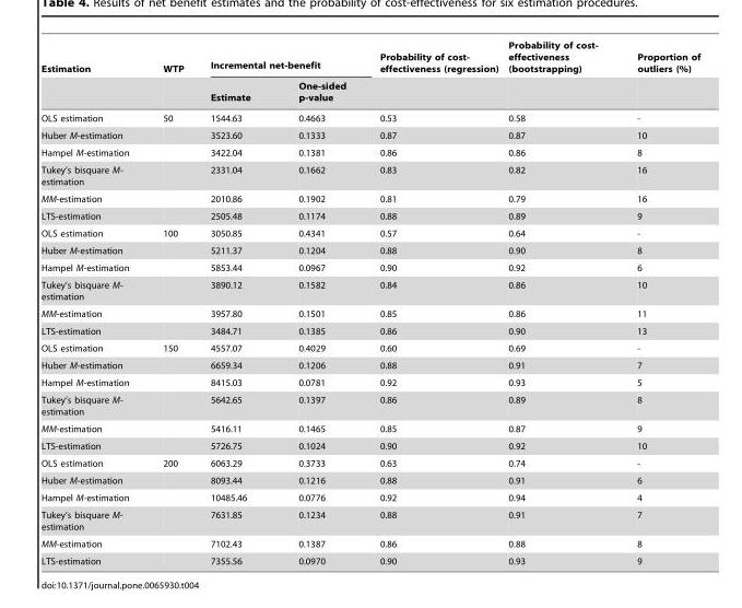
<table><thead><tr><td rowspan="2">Estimation</td><td rowspan="2">WTP</td><td colspan="2">Incremental net-benefit</td><td rowspan="2">Probability of cost- effectiveness (regression)</td><td rowspan="2">Probability of cost- effectiveness (bootstrapping)</td><td rowspan="2">Proportion of outliers (%)</td></tr><tr><td>Estimate</td><td>One-sided p-value</td></tr></thead><tbody><tr><td>OLS estimation</td><td>50</td><td>1544.63</td><td>0.4663</td><td>0.53</td><td>0.58</td><td>-</td></tr><tr><td>Huber M-estimation</td><td></td><td>3523.60</td><td>0.1333</td><td>0.87</td><td>0.87</td><td>10</td></tr><tr><td>Hampel M-estimation</td><td></td><td>3422.04</td><td>0.1381</td><td>0.86</td><td>0.86</td><td>8</td></tr><tr><td>Tukey’s bisquare M- estimation</td><td></td><td>2331.04</td><td>0.1662</td><td>0.83</td><td>0.82</td><td>16</td></tr><tr><td>MM-estimation</td><td></td><td>2010.86</td><td>0.1902</td><td>0.81</td><td>0.79</td><td>16</td></tr><tr><td>LTS-estimation</td><td></td><td>2505.48</td><td>0.1174</td><td>0.88</td><td>0.89</td><td>9</td></tr><tr><td>OLS estimation</td><td>100</td><td>3050.85</td><td>0.4341</td><td>0.57</td><td>0.64</td><td>-</td></tr><tr><td>Huber M-estimation</td><td></td><td>5211.37</td><td>0.1204</td><td>0.88</td><td>0.90</td><td>8</td></tr><tr><td>Hampel M-estimation</td><td></td><td>5853.44</td><td>0.0967</td><td>0.90</td><td>0.92</td><td>6</td></tr><tr><td>Tukey’s bisquare M- estimation</td><td></td><td>3890.12</td><td>0.1582</td><td>0.84</td><td>0.86</td><td>10</td></tr><tr><td>MM-estimation</td><td></td><td>3957.80</td><td>0.1501</td><td>0.85</td><td>0.86</td><td>11</td></tr><tr><td>LTS-estimation</td><td></td><td>3484.71</td><td>0.1385</td><td>0.86</td><td>0.90</td><td>13</td></tr><tr><td>OLS estimation</td><td>150</td><td>4557.07</td><td>0.4029</td><td>0.60</td><td>0.69</td><td>-</td></tr><tr><td>Huber M-estimation</td><td></td><td>6659.34</td><td>0.1206</td><td>0.88</td><td>0.91</td><td>7</td></tr><tr><td>Hampel M-estimation</td><td></td><td>8415.03</td><td>0.0781</td><td>0.92</td><td>0.93</td><td>5</td></tr><tr><td>Tukey’s bisquare M- estimation</td><td></td><td>5642.65</td><td>0.1397</td><td>0.86</td><td>0.89</td><td>8</td></tr><tr><td>MM-estimation</td><td></td><td>5416.11</td><td>0.1465</td><td>0.85</td><td>0.87</td><td>9</td></tr><tr><td>LTS-estimation</td><td></td><td>5726.75</td><td>0.1024</td><td>0.90</td><td>0.92</td><td>10</td></tr><tr><td>OLS estimation</td><td>200</td><td>6063.29</td><td>0.3733</td><td>0.63</td><td>0.74</td><td>-</td></tr><tr><td>Huber M-estimation</td><td></td><td>8093.44</td><td>0.1216</td><td>0.88</td><td>0.91</td><td>6</td></tr><tr><td>Hampel M-estimation</td><td></td><td>10485.46</td><td>0.0776</td><td>0.92</td><td>0.94</td><td>4</td></tr><tr><td>Tukey’s bisquare M- estimation</td><td></td><td>7631.85</td><td>0.1234</td><td>0.88</td><td>0.91</td><td>7</td></tr><tr><td>MM-estimation</td><td></td><td>7102.43</td><td>0.1387</td><td>0.86</td><td>0.88</td><td>8</td></tr><tr><td>LTS-estimation</td><td></td><td>7355.56</td><td>0.0970</td><td>0.90</td><td>0.93</td><td>9</td></tr></tbody></table>